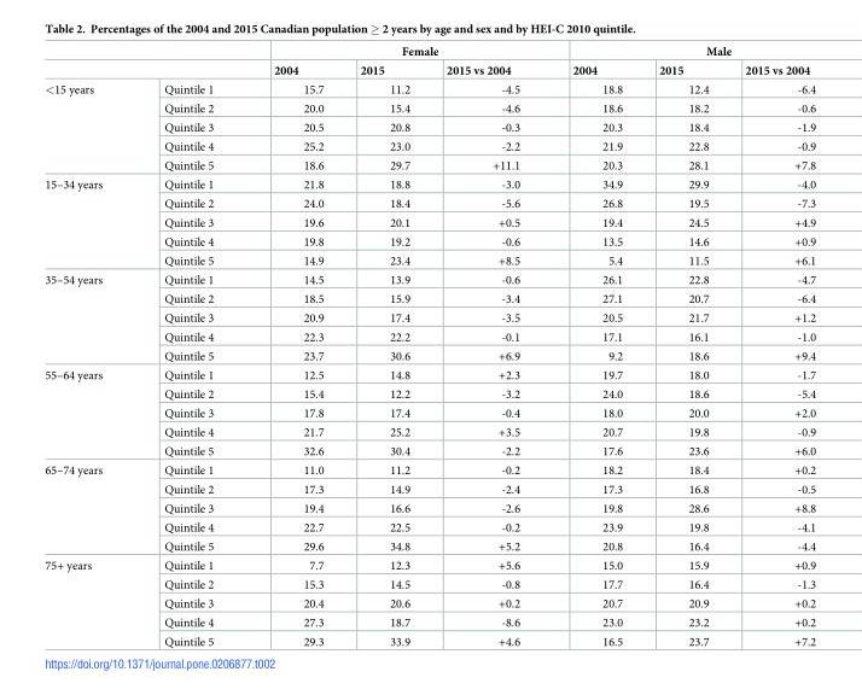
<table><thead><tr><td rowspan="2"></td><td rowspan="2"></td><td colspan="3">Female</td><td colspan="3">Male</td></tr><tr><td>2004</td><td>2015</td><td>2015 vs 2004</td><td>2004</td><td>2015</td><td>2015 vs 2004</td></tr></thead><tbody><tr><td rowspan="5">&lt;15 years</td><td>Quintile 1</td><td>15.7</td><td>11.2</td><td>-4.5</td><td>18.8</td><td>12.4</td><td>-6.4</td></tr><tr><td>Quintile 2</td><td>20.0</td><td>15.4</td><td>-4.6</td><td>18.6</td><td>18.2</td><td>-0.6</td></tr><tr><td>Quintile 3</td><td>20.5</td><td>20.8</td><td>-0.3</td><td>20.3</td><td>18.4</td><td>-1.9</td></tr><tr><td>Quintile 4</td><td>25.2</td><td>23.0</td><td>-2.2</td><td>21.9</td><td>22.8</td><td>-0.9</td></tr><tr><td>Quintile 5</td><td>18.6</td><td>29.7</td><td>+11.1</td><td>20.3</td><td>28.1</td><td>+7.8</td></tr><tr><td rowspan="5">15–34 years</td><td>Quintile 1</td><td>21.8</td><td>18.8</td><td>-3.0</td><td>34.9</td><td>29.9</td><td>-4.0</td></tr><tr><td>Quintile 2</td><td>24.0</td><td>18.4</td><td>-5.6</td><td>26.8</td><td>19.5</td><td>-7.3</td></tr><tr><td>Quintile 3</td><td>19.6</td><td>20.1</td><td>+0.5</td><td>19.4</td><td>24.5</td><td>+4.9</td></tr><tr><td>Quintile 4</td><td>19.8</td><td>19.2</td><td>-0.6</td><td>13.5</td><td>14.6</td><td>+0.9</td></tr><tr><td>Quintile 5</td><td>14.9</td><td>23.4</td><td>+8.5</td><td>5.4</td><td>11.5</td><td>+6.1</td></tr><tr><td rowspan="5">35–54 years</td><td>Quintile 1</td><td>14.5</td><td>13.9</td><td>-0.6</td><td>26.1</td><td>22.8</td><td>-4.7</td></tr><tr><td>Quintile 2</td><td>18.5</td><td>15.9</td><td>-3.4</td><td>27.1</td><td>20.7</td><td>-6.4</td></tr><tr><td>Quintile 3</td><td>20.9</td><td>17.4</td><td>-3.5</td><td>20.5</td><td>21.7</td><td>+1.2</td></tr><tr><td>Quintile 4</td><td>22.3</td><td>22.2</td><td>-0.1</td><td>17.1</td><td>16.1</td><td>-1.0</td></tr><tr><td>Quintile 5</td><td>23.7</td><td>30.6</td><td>+6.9</td><td>9.2</td><td>18.6</td><td>+9.4</td></tr><tr><td rowspan="5">55–64 years</td><td>Quintile 1</td><td>12.5</td><td>14.8</td><td>+2.3</td><td>19.7</td><td>18.0</td><td>-1.7</td></tr><tr><td>Quintile 2</td><td>15.4</td><td>12.2</td><td>-3.2</td><td>24.0</td><td>18.6</td><td>-5.4</td></tr><tr><td>Quintile 3</td><td>17.8</td><td>17.4</td><td>-0.4</td><td>18.0</td><td>20.0</td><td>+2.0</td></tr><tr><td>Quintile 4</td><td>21.7</td><td>25.2</td><td>+3.5</td><td>20.7</td><td>19.8</td><td>-0.9</td></tr><tr><td>Quintile 5</td><td>32.6</td><td>30.4</td><td>-2.2</td><td>17.6</td><td>23.6</td><td>+6.0</td></tr><tr><td rowspan="5">65–74 years</td><td>Quintile 1</td><td>11.0</td><td>11.2</td><td>-0.2</td><td>18.2</td><td>18.4</td><td>+0.2</td></tr><tr><td>Quintile 2</td><td>17.3</td><td>14.9</td><td>-2.4</td><td>17.3</td><td>16.8</td><td>-0.5</td></tr><tr><td>Quintile 3</td><td>19.4</td><td>16.6</td><td>-2.6</td><td>19.8</td><td>28.6</td><td>+8.8</td></tr><tr><td>Quintile 4</td><td>22.7</td><td>22.5</td><td>-0.2</td><td>23.9</td><td>19.8</td><td>-4.1</td></tr><tr><td>Quintile 5</td><td>29.6</td><td>34.8</td><td>+5.2</td><td>20.8</td><td>16.4</td><td>-4.4</td></tr><tr><td rowspan="5">75+ years</td><td>Quintile 1</td><td>7.7</td><td>12.3</td><td>+5.6</td><td>15.0</td><td>15.9</td><td>+0.9</td></tr><tr><td>Quintile 2</td><td>15.3</td><td>14.5</td><td>-0.8</td><td>17.7</td><td>16.4</td><td>-1.3</td></tr><tr><td>Quintile 3</td><td>20.4</td><td>20.6</td><td>+0.2</td><td>20.7</td><td>20.9</td><td>+0.2</td></tr><tr><td>Quintile 4</td><td>27.3</td><td>18.7</td><td>-8.6</td><td>23.0</td><td>23.2</td><td>+0.2</td></tr><tr><td>Quintile 5</td><td>29.3</td><td>33.9</td><td>+4.6</td><td>16.5</td><td>23.7</td><td>+7.2</td></tr></tbody></table>